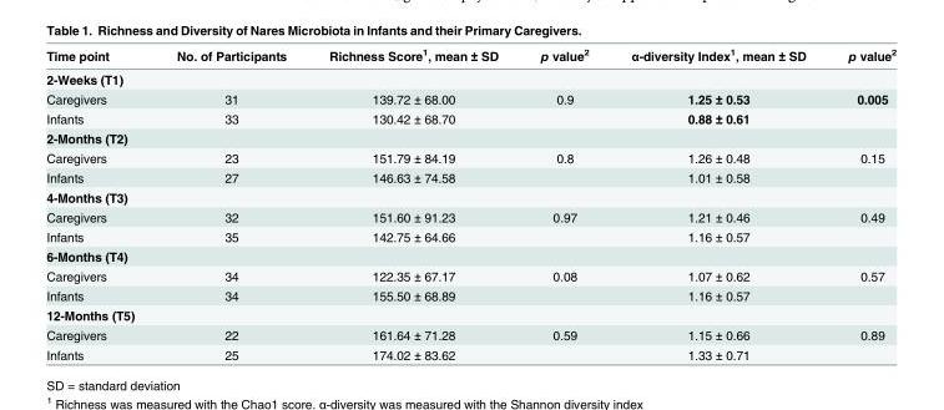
<table><thead><tr><td>Time point</td><td>No. of Participants</td><td>Richness Score<sup>1</sup>, mean ± SD</td><td>p value<sup>2</sup></td><td>α-diversity Index<sup>1</sup>, mean ± SD</td><td>p value<sup>2</sup></td></tr></thead><tbody><tr><td colspan="6">2-Weeks (T1)</td></tr><tr><td>Caregivers</td><td>31</td><td>139.72 ± 68.00</td><td>0.9</td><td>1.25 ± 0.53</td><td>0.005</td></tr><tr><td>Infants</td><td>33</td><td>130.42 ± 68.70</td><td></td><td>0.88 ± 0.61</td><td></td></tr><tr><td colspan="6">2-Months (T2)</td></tr><tr><td>Caregivers</td><td>23</td><td>151.79 ± 84.19</td><td>0.8</td><td>1.26 ± 0.48</td><td>0.15</td></tr><tr><td>Infants</td><td>27</td><td>146.63 ± 74.58</td><td></td><td>1.01 ± 0.58</td><td></td></tr><tr><td colspan="6">4-Months (T3)</td></tr><tr><td>Caregivers</td><td>32</td><td>151.60 ± 91.23</td><td>0.97</td><td>1.21 ± 0.46</td><td>0.49</td></tr><tr><td>Infants</td><td>35</td><td>142.75 ± 64.66</td><td></td><td>1.16 ± 0.57</td><td></td></tr><tr><td colspan="6">6-Months (T4)</td></tr><tr><td>Caregivers</td><td>34</td><td>122.35 ± 67.17</td><td>0.08</td><td>1.07 ± 0.62</td><td>0.57</td></tr><tr><td>Infants</td><td>34</td><td>155.50 ± 68.89</td><td></td><td>1.16 ± 0.57</td><td></td></tr><tr><td colspan="6">12-Months (T5)</td></tr><tr><td>Caregivers</td><td>22</td><td>161.64 ± 71.28</td><td>0.59</td><td>1.15 ± 0.66</td><td>0.89</td></tr><tr><td>Infants</td><td>25</td><td>174.02 ± 83.62</td><td></td><td>1.33 ± 0.71</td><td></td></tr></tbody></table>